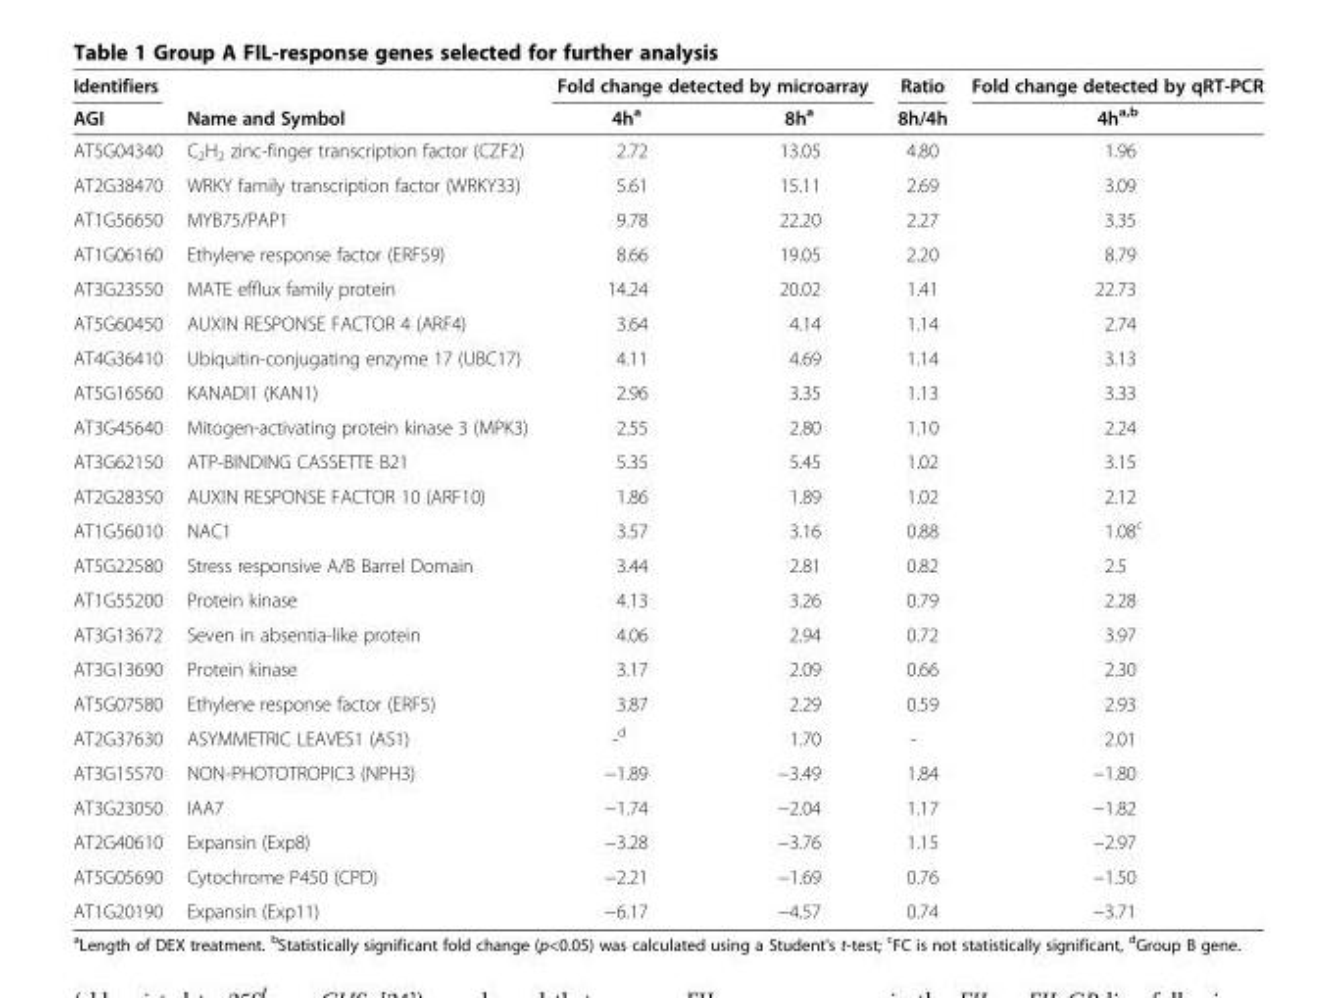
<table><thead><tr><td rowspan="2">Identifiers AGI</td><td rowspan="2">Name and Symbol</td><td colspan="2">Fold change detected by microarray</td><td rowspan="2">Ratio 8h/4h</td><td rowspan="2">Fold change detected by qRT-PCR 4h<sup>a,b</sup></td></tr><tr><td>4h<sup>a</sup></td><td>8h<sup>a</sup></td></tr></thead><tbody><tr><td>AT5G04340</td><td>C<sub>2</sub>H<sub>2</sub> zinc-finger transcription factor (CZF2)</td><td>2.72</td><td>13.05</td><td>4.80</td><td>1.96</td></tr><tr><td>AT2G38470</td><td>WRKY family transcription factor (WRKY33)</td><td>5.61</td><td>15.11</td><td>2.69</td><td>3.09</td></tr><tr><td>AT1G56650</td><td>MYB75/PAP1</td><td>9.78</td><td>22.20</td><td>2.27</td><td>3.35</td></tr><tr><td>AT1G06160</td><td>Ethylene response factor (ERF59)</td><td>8.66</td><td>19.05</td><td>2.20</td><td>8.79</td></tr><tr><td>AT3G23550</td><td>MATE efflux family protein</td><td>14.24</td><td>20.02</td><td>1.41</td><td>22.73</td></tr><tr><td>AT5G60450</td><td>AUXIN RESPONSE FACTOR 4 (ARF4)</td><td>3.64</td><td>4.14</td><td>1.14</td><td>2.74</td></tr><tr><td>AT4G36410</td><td>Ubiquitin-conjugating enzyme 17 (UBC17)</td><td>4.11</td><td>4.69</td><td>1.14</td><td>3.13</td></tr><tr><td>AT5G16560</td><td>KANADI1 (KAN1)</td><td>2.96</td><td>3.35</td><td>1.13</td><td>3.33</td></tr><tr><td>AT3G45640</td><td>Mitogen-activating protein kinase 3 (MPK3)</td><td>2.55</td><td>2.80</td><td>1.10</td><td>2.24</td></tr><tr><td>AT3G62150</td><td>ATP-BINDING CASSETTE B21</td><td>5.35</td><td>5.45</td><td>1.02</td><td>3.15</td></tr><tr><td>AT2G28350</td><td>AUXIN RESPONSE FACTOR 10 (ARF10)</td><td>1.86</td><td>1.89</td><td>1.02</td><td>2.12</td></tr><tr><td>AT1G56010</td><td>NAC1</td><td>3.57</td><td>3.16</td><td>0.88</td><td>1.08<sup>c</sup></td></tr><tr><td>AT5G22580</td><td>Stress responsive A/B Barrel Domain</td><td>3.44</td><td>2.81</td><td>0.82</td><td>2.5</td></tr><tr><td>AT1G55200</td><td>Protein kinase</td><td>4.13</td><td>3.26</td><td>0.79</td><td>2.28</td></tr><tr><td>AT3G13672</td><td>Seven in absentia-like protein</td><td>4.06</td><td>2.94</td><td>0.72</td><td>3.97</td></tr><tr><td>AT3G13690</td><td>Protein kinase</td><td>3.17</td><td>2.09</td><td>0.66</td><td>2.30</td></tr><tr><td>AT5G07580</td><td>Ethylene response factor (ERF5)</td><td>3.87</td><td>2.29</td><td>0.59</td><td>2.93</td></tr><tr><td>AT2G37630</td><td>ASYMMETRIC LEAVES1 (AS1)</td><td>-<sup>d</sup></td><td>1.70</td><td>-</td><td>2.01</td></tr><tr><td>AT3G15570</td><td>NON-PHOTOTROPIC3 (NPH3)</td><td>−1.89</td><td>−3.49</td><td>1.84</td><td>−1.80</td></tr><tr><td>AT3G23050</td><td>IAA7</td><td>−1.74</td><td>−2.04</td><td>1.17</td><td>−1.82</td></tr><tr><td>AT2G40610</td><td>Expansin (Exp8)</td><td>−3.28</td><td>−3.76</td><td>1.15</td><td>−2.97</td></tr><tr><td>AT5G05690</td><td>Cytochrome P450 (CPD)</td><td>−2.21</td><td>−1.69</td><td>0.76</td><td>−1.50</td></tr><tr><td>AT1G20190</td><td>Expansin (Exp11)</td><td>−6.17</td><td>−4.57</td><td>0.74</td><td>−3.71</td></tr></tbody></table>